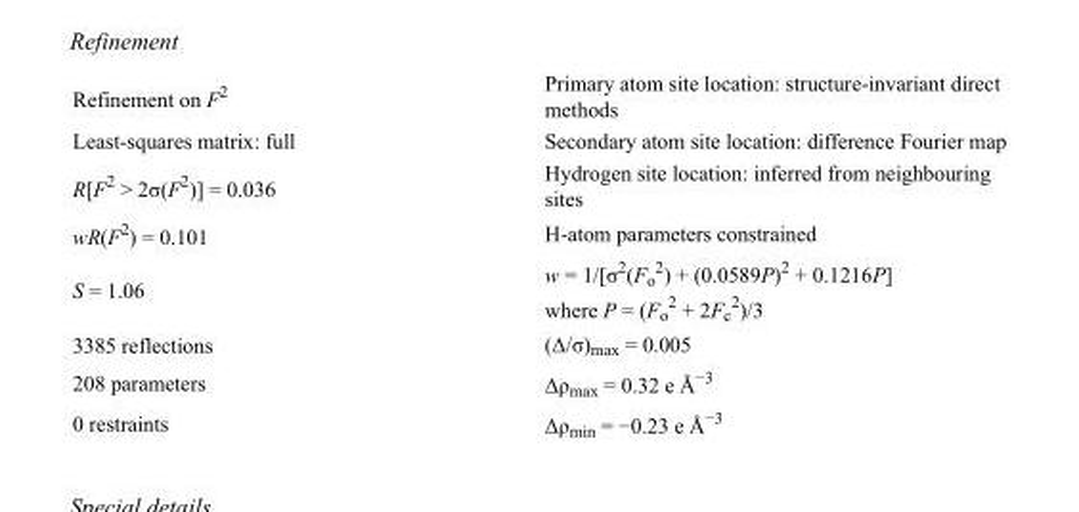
<table><tbody><tr><td>Refinement on F<sup>2</sup></td><td>Primary atom site location: structure-invariant direct methods</td></tr><tr><td>Least-squares matrix: full</td><td>Secondary atom site location: difference Fourier map</td></tr><tr><td>R[F<sup>2</sup> &gt; 2σ(F<sup>2</sup>)] = 0.036</td><td>Hydrogen site location: inferred from neighbouring sites</td></tr><tr><td>wR(F<sup>2</sup>) = 0.101</td><td>H-atom parameters constrained</td></tr><tr><td>S = 1.06</td><td>w = 1/[σ<sup>2</sup>(F<sub>o</sub> <sup>2</sup>) + (0.0589P)<sup>2</sup> + 0.1216P] where P = (F<sub>o</sub> <sup>2</sup> + 2F<sub>c</sub> <sup>2</sup>)/3</td></tr><tr><td>3385 reflections</td><td>(Δ/σ)<sub>max</sub> = 0.005</td></tr><tr><td>208 parameters</td><td>Δρ<sub>max</sub> = 0.32 e Å<sup>−3</sup></td></tr><tr><td>0 restraints</td><td>Δρ<sub>min</sub> = −0.23 e Å<sup>−3</sup></td></tr></tbody></table>